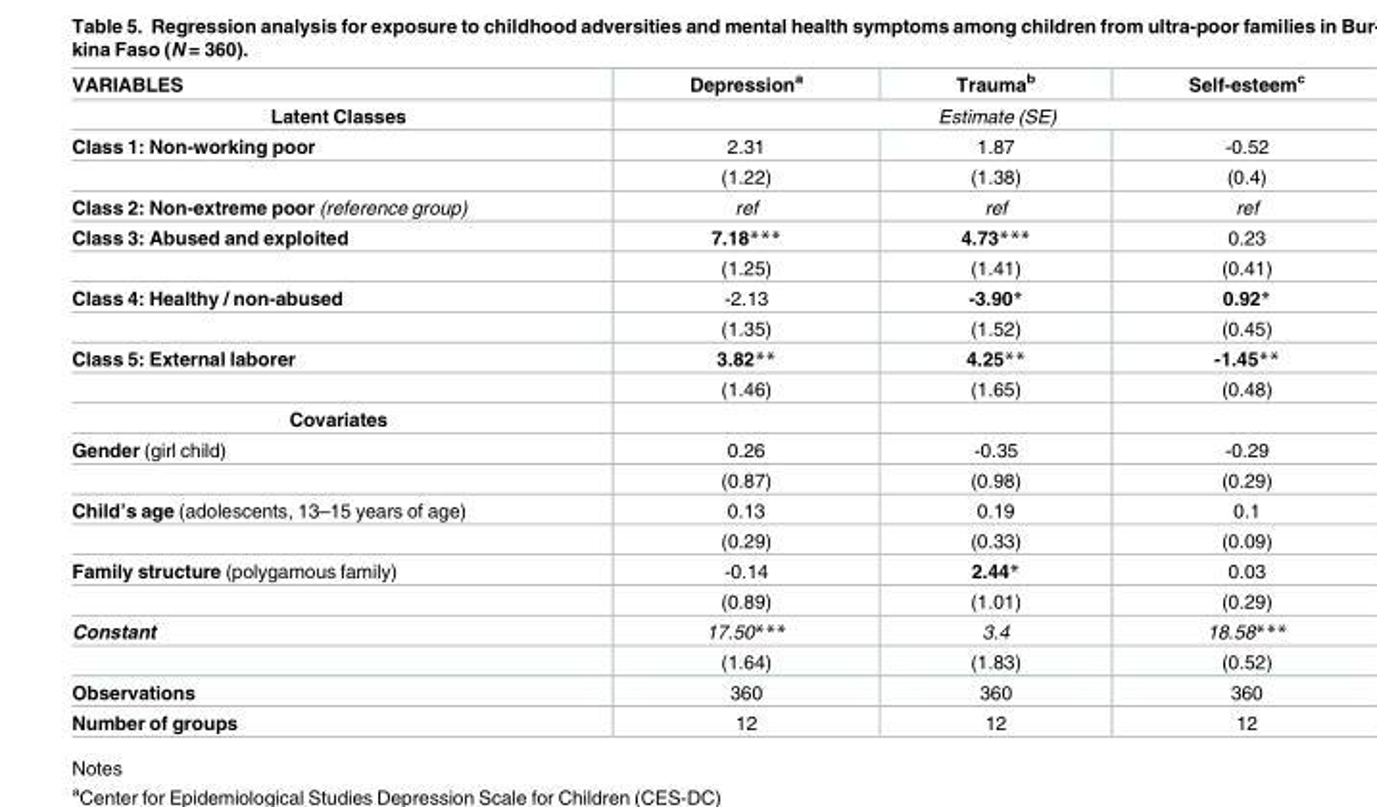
<table><thead><tr><td>VARIABLES</td><td>Depression<sup>a</sup></td><td>Trauma<sup>b</sup></td><td>Self-esteem<sup>c</sup></td></tr></thead><tbody><tr><td>Latent Classes</td><td colspan="3">Estimate (SE)</td></tr><tr><td rowspan="2">Class 1: Non-working poor</td><td>2.31</td><td>1.87</td><td>-0.52</td></tr><tr><td>(1.22)</td><td>(1.38)</td><td>(0.4)</td></tr><tr><td>Class 2: Non-extreme poor (reference group)</td><td>ref</td><td>ref</td><td>ref</td></tr><tr><td rowspan="2">Class 3: Abused and exploited</td><td>7.18***</td><td>4.73***</td><td>0.23</td></tr><tr><td>(1.25)</td><td>(1.41)</td><td>(0.41)</td></tr><tr><td rowspan="2">Class 4: Healthy / non-abused</td><td>-2.13</td><td>-3.90*</td><td>0.92*</td></tr><tr><td>(1.35)</td><td>(1.52)</td><td>(0.45)</td></tr><tr><td rowspan="2">Class 5: External laborer</td><td>3.82**</td><td>4.25**</td><td>-1.45**</td></tr><tr><td>(1.46)</td><td>(1.65)</td><td>(0.48)</td></tr><tr><td colspan="4">Covariates</td></tr><tr><td rowspan="2">Gender (girl child)</td><td>0.26</td><td>-0.35</td><td>-0.29</td></tr><tr><td>(0.87)</td><td>(0.98)</td><td>(0.29)</td></tr><tr><td rowspan="2">Child’s age (adolescents, 13–15 years of age)</td><td>0.13</td><td>0.19</td><td>0.1</td></tr><tr><td>(0.29)</td><td>(0.33)</td><td>(0.09)</td></tr><tr><td rowspan="2">Family structure (polygamous family)</td><td>-0.14</td><td>2.44*</td><td>0.03</td></tr><tr><td>(0.89)</td><td>(1.01)</td><td>(0.29)</td></tr><tr><td rowspan="2">Constant</td><td>17.50***</td><td>3.4</td><td>18.58***</td></tr><tr><td>(1.64)</td><td>(1.83)</td><td>(0.52)</td></tr><tr><td>Observations</td><td>360</td><td>360</td><td>360</td></tr><tr><td>Number of groups</td><td>12</td><td>12</td><td>12</td></tr></tbody></table>